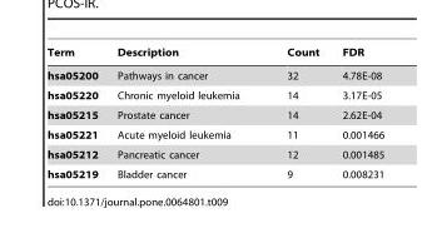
<table><thead><tr><td>Term</td><td>Description</td><td>Count</td><td>FDR</td></tr></thead><tbody><tr><td>hsa05200</td><td>Pathways in cancer</td><td>32</td><td>4.78E-08</td></tr><tr><td>hsa05220</td><td>Chronic myeloid leukemia</td><td>14</td><td>3.17E-05</td></tr><tr><td>hsa05215</td><td>Prostate cancer</td><td>14</td><td>2.62E-04</td></tr><tr><td>hsa05221</td><td>Acute myeloid leukemia</td><td>11</td><td>0.001466</td></tr><tr><td>hsa05212</td><td>Pancreatic cancer</td><td>12</td><td>0.001485</td></tr><tr><td>hsa05219</td><td>Bladder cancer</td><td>9</td><td>0.008231</td></tr></tbody></table>